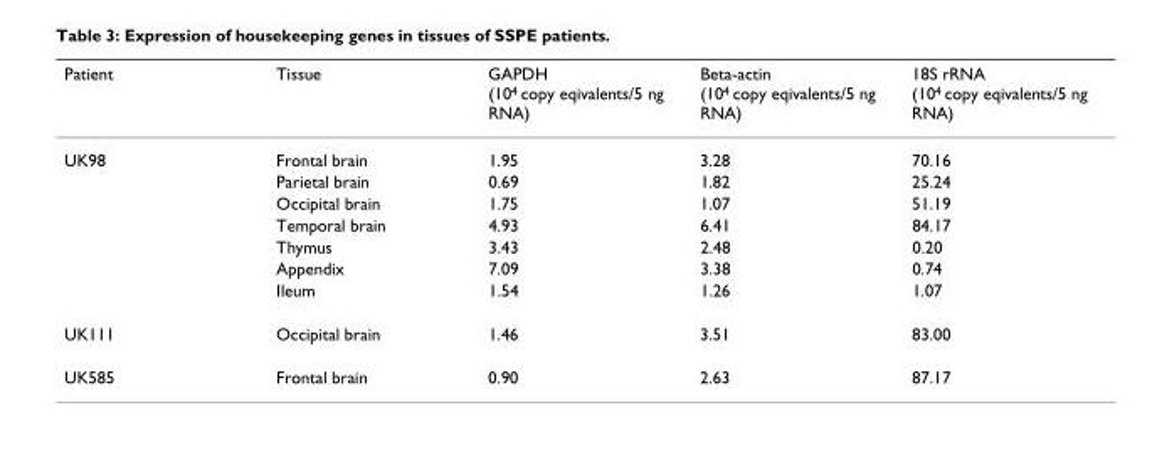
<table><thead><tr><td>Patient</td><td>Tissue</td><td>GAPDH (10<sup>4</sup> copy eqivalents/5 ng RNA)</td><td>Beta-actin (10<sup>4</sup> copy eqivalents/5 ng RNA)</td><td>18S rRNA (10<sup>4</sup> copy eqivalents/5 ng RNA)</td></tr></thead><tbody><tr><td rowspan="7">UK98</td><td>Frontal brain</td><td>1.95</td><td>3.28</td><td>70.16</td></tr><tr><td>Parietal brain</td><td>0.69</td><td>1.82</td><td>25.24</td></tr><tr><td>Occipital brain</td><td>1.75</td><td>1.07</td><td>51.19</td></tr><tr><td>Temporal brain</td><td>4.93</td><td>6.41</td><td>84.17</td></tr><tr><td>Thymus</td><td>3.43</td><td>2.48</td><td>0.20</td></tr><tr><td>Appendix</td><td>7.09</td><td>3.38</td><td>0.74</td></tr><tr><td>Ileum</td><td>1.54</td><td>1.26</td><td>1.07</td></tr><tr><td>UK111</td><td>Occipital brain</td><td>1.46</td><td>3.51</td><td>83.00</td></tr><tr><td>UK585</td><td>Frontal brain</td><td>0.90</td><td>2.63</td><td>87.17</td></tr></tbody></table>